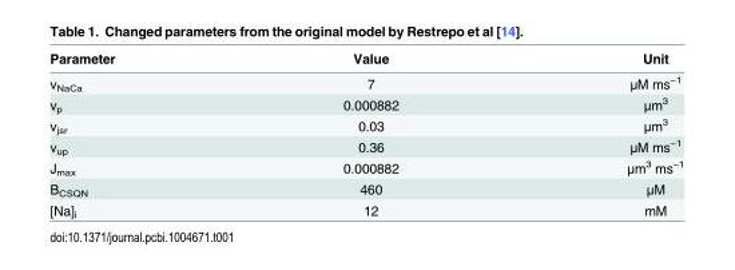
<table><thead><tr><td>Parameter</td><td>Value</td><td>Unit</td></tr></thead><tbody><tr><td>ν<sub>NaCa</sub></td><td>7</td><td>μM ms<sup>−1</sup></td></tr><tr><td>v<sub>p</sub></td><td>0.000882</td><td>μm<sup>3</sup></td></tr><tr><td>v<sub>jsr</sub></td><td>0.03</td><td>μm<sup>3</sup></td></tr><tr><td>ν<sub>up</sub></td><td>0.36</td><td>μM ms<sup>−1</sup></td></tr><tr><td>J<sub>max</sub></td><td>0.000882</td><td>μm<sup>3</sup> ms<sup>−1</sup></td></tr><tr><td>B<sub>CSQN</sub></td><td>460</td><td>μM</td></tr><tr><td>[Na]<sub>i</sub></td><td>12</td><td>mM</td></tr></tbody></table>